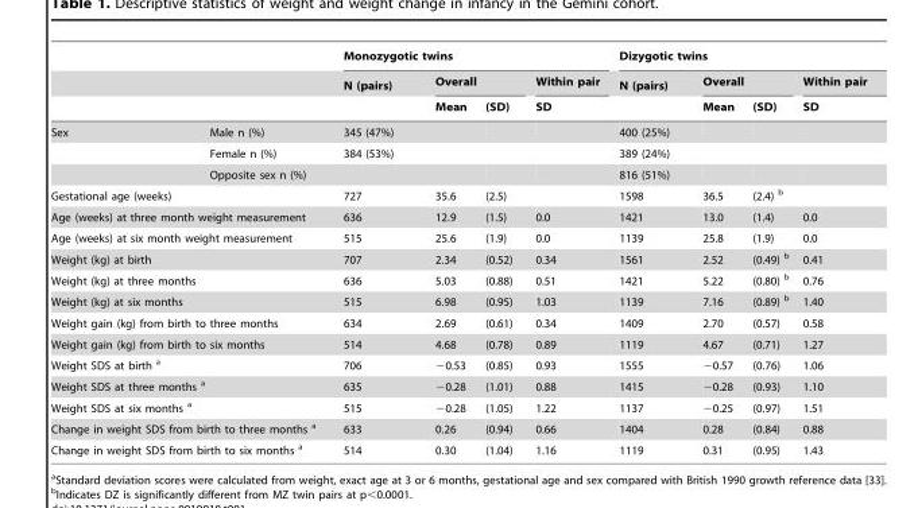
<table><thead><tr><td rowspan="3"></td><td rowspan="3"></td><td colspan="4">Monozygotic twins</td><td colspan="4">Dizygotic twins</td></tr><tr><td rowspan="2">N (pairs)</td><td colspan="2">Overall</td><td rowspan="2">Within pair SD</td><td rowspan="2">N (pairs)</td><td colspan="2">Overall</td><td rowspan="2">Within pair SD</td></tr><tr><td>Mean</td><td>(SD)</td><td>Mean</td><td>(SD)</td></tr></thead><tbody><tr><td rowspan="3">Sex</td><td>Male n (%)</td><td>345 (47%)</td><td></td><td></td><td></td><td>400 (25%)</td><td></td><td></td><td></td></tr><tr><td>Female n (%)</td><td>384 (53%)</td><td></td><td></td><td></td><td>389 (24%)</td><td></td><td></td><td></td></tr><tr><td>Opposite sex n (%)</td><td></td><td></td><td></td><td></td><td>816 (51%)</td><td></td><td></td><td></td></tr><tr><td colspan="2">Gestational age (weeks)</td><td>727</td><td>35.6</td><td>(2.5)</td><td></td><td>1598</td><td>36.5</td><td>(2.4) b</td><td></td></tr><tr><td colspan="2">Age (weeks) at three month weight measurement</td><td>636</td><td>12.9</td><td>(1.5)</td><td>0.0</td><td>1421</td><td>13.0</td><td>(1.4)</td><td>0.0</td></tr><tr><td colspan="2">Age (weeks) at six month weight measurement</td><td>515</td><td>25.6</td><td>(1.9)</td><td>0.0</td><td>1139</td><td>25.8</td><td>(1.9)</td><td>0.0</td></tr><tr><td colspan="2">Weight (kg) at birth</td><td>707</td><td>2.34</td><td>(0.52)</td><td>0.34</td><td>1561</td><td>2.52</td><td>(0.49) b</td><td>0.41</td></tr><tr><td colspan="2">Weight (kg) at three months</td><td>636</td><td>5.03</td><td>(0.88)</td><td>0.51</td><td>1421</td><td>5.22</td><td>(0.80) b</td><td>0.76</td></tr><tr><td colspan="2">Weight (kg) at six months</td><td>515</td><td>6.98</td><td>(0.95)</td><td>1.03</td><td>1139</td><td>7.16</td><td>(0.89) b</td><td>1.40</td></tr><tr><td colspan="2">Weight gain (kg) from birth to three months</td><td>634</td><td>2.69</td><td>(0.61)</td><td>0.34</td><td>1409</td><td>2.70</td><td>(0.57)</td><td>0.58</td></tr><tr><td colspan="2">Weight gain (kg) from birth to six months</td><td>514</td><td>4.68</td><td>(0.78)</td><td>0.89</td><td>1119</td><td>4.67</td><td>(0.71)</td><td>1.27</td></tr><tr><td colspan="2">Weight SDS at birth a</td><td>706</td><td>−0.53</td><td>(0.85)</td><td>0.93</td><td>1555</td><td>−0.57</td><td>(0.76)</td><td>1.06</td></tr><tr><td colspan="2">Weight SDS at three months a</td><td>635</td><td>−0.28</td><td>(1.01)</td><td>0.88</td><td>1415</td><td>−0.28</td><td>(0.93)</td><td>1.10</td></tr><tr><td colspan="2">Weight SDS at six months a</td><td>515</td><td>−0.28</td><td>(1.05)</td><td>1.22</td><td>1137</td><td>−0.25</td><td>(0.97)</td><td>1.51</td></tr><tr><td colspan="2">Change in weight SDS from birth to three months a</td><td>633</td><td>0.26</td><td>(0.94)</td><td>0.66</td><td>1404</td><td>0.28</td><td>(0.84)</td><td>0.88</td></tr><tr><td colspan="2">Change in weight SDS from birth to six months a</td><td>514</td><td>0.30</td><td>(1.04)</td><td>1.16</td><td>1119</td><td>0.31</td><td>(0.95)</td><td>1.43</td></tr></tbody></table>